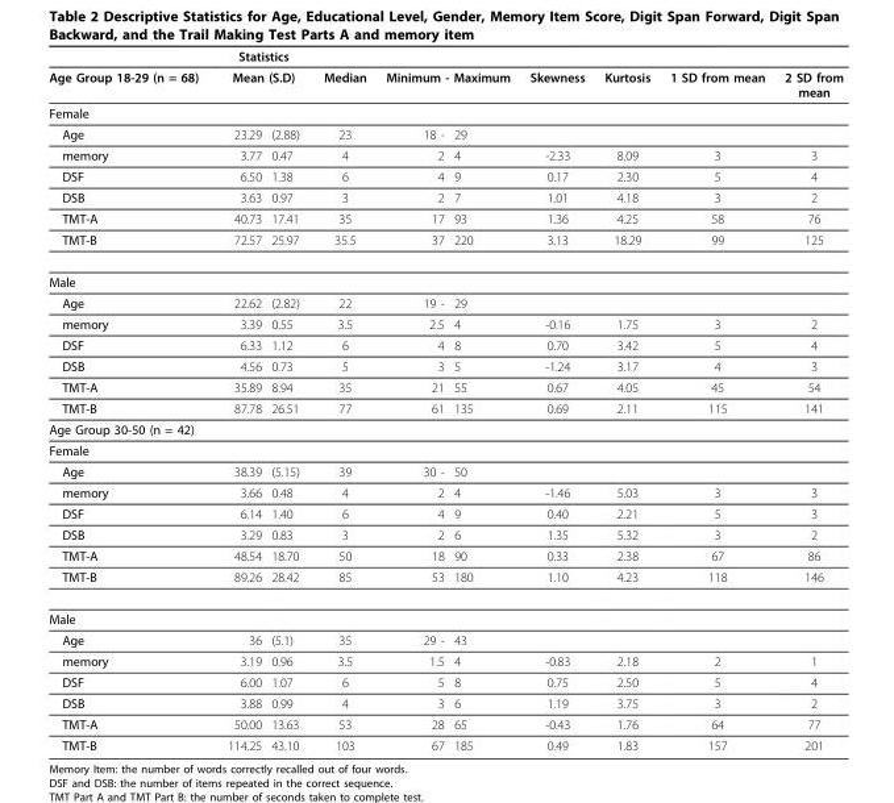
<table><thead><tr><td rowspan="3">Age Group 18-29 (n = 68) Female</td><td rowspan="2" colspan="2">Statistics Mean (S.D)</td><td rowspan="3">Median</td><td></td><td></td><td rowspan="3">Skewness</td><td rowspan="3">Kurtosis</td><td rowspan="3">1 SD from mean</td><td rowspan="3">2 SD from mean</td></tr><tr><td colspan="2">Minimum - Maximum</td></tr><tr><td></td><td></td><td></td><td></td></tr></thead><tbody><tr><td>Age</td><td>23.29</td><td>(2.88)</td><td>23</td><td>18 -</td><td>29</td><td></td><td></td><td></td><td></td></tr><tr><td>memory</td><td>3.77</td><td>0.47</td><td>4</td><td>2</td><td>4</td><td>-2.33</td><td>8.09</td><td>3</td><td>3</td></tr><tr><td>DSF</td><td>6.50</td><td>1.38</td><td>6</td><td>4</td><td>9</td><td>0.17</td><td>2.30</td><td>5</td><td>4</td></tr><tr><td>DSB</td><td>3.63</td><td>0.97</td><td>3</td><td>2</td><td>7</td><td>1.01</td><td>4.18</td><td>3</td><td>2</td></tr><tr><td>TMT-A</td><td>40.73</td><td>17.41</td><td>35</td><td>17</td><td>93</td><td>1.36</td><td>4.25</td><td>58</td><td>76</td></tr><tr><td>TMT-B</td><td>72.57</td><td>25.97</td><td>35.5</td><td>37</td><td>220</td><td>3.13</td><td>18.29</td><td>99</td><td>125</td></tr><tr><td colspan="10">Male</td></tr><tr><td>Age</td><td>22.62</td><td>(2.82)</td><td>22</td><td>19 -</td><td>29</td><td></td><td></td><td></td><td></td></tr><tr><td>memory</td><td>3.39</td><td>0.55</td><td>3.5</td><td>2.5</td><td>4</td><td>-0.16</td><td>1.75</td><td>3</td><td>2</td></tr><tr><td>DSF</td><td>6.33</td><td>1.12</td><td>6</td><td>4</td><td>8</td><td>0.70</td><td>3.42</td><td>5</td><td>4</td></tr><tr><td>DSB</td><td>4.56</td><td>0.73</td><td>5</td><td>3</td><td>5</td><td>-1.24</td><td>3.17</td><td>4</td><td>3</td></tr><tr><td>TMT-A</td><td>35.89</td><td>8.94</td><td>35</td><td>21</td><td>55</td><td>0.67</td><td>4.05</td><td>45</td><td>54</td></tr><tr><td>TMT-B</td><td>87.78</td><td>26.51</td><td>77</td><td>61</td><td>135</td><td>0.69</td><td>2.11</td><td>115</td><td>141</td></tr><tr><td colspan="10">Age Group 30-50 (n = 42)</td></tr><tr><td colspan="10">Female</td></tr><tr><td>Age</td><td>38.39</td><td>(5.15)</td><td>39</td><td>30 -</td><td>50</td><td></td><td></td><td></td><td></td></tr><tr><td>memory</td><td>3.66</td><td>0.48</td><td>4</td><td>2</td><td>4</td><td>-1.46</td><td>5.03</td><td>3</td><td>3</td></tr><tr><td>DSF</td><td>6.14</td><td>1.40</td><td>6</td><td>4</td><td>9</td><td>0.40</td><td>2.21</td><td>5</td><td>3</td></tr><tr><td>DSB</td><td>3.29</td><td>0.83</td><td>3</td><td>2</td><td>6</td><td>1.35</td><td>5.32</td><td>3</td><td>2</td></tr><tr><td>TMT-A</td><td>48.54</td><td>18.70</td><td>50</td><td>18</td><td>90</td><td>0.33</td><td>2.38</td><td>67</td><td>86</td></tr><tr><td>TMT-B</td><td>89.26</td><td>28.42</td><td>85</td><td>53</td><td>180</td><td>1.10</td><td>4.23</td><td>118</td><td>146</td></tr><tr><td colspan="10">Male</td></tr><tr><td>Age</td><td>36</td><td>(5.1)</td><td>35</td><td>29 -</td><td>43</td><td></td><td></td><td></td><td></td></tr><tr><td>memory</td><td>3.19</td><td>0.96</td><td>3.5</td><td>1.5</td><td>4</td><td>-0.83</td><td>2.18</td><td>2</td><td>1</td></tr><tr><td>DSF</td><td>6.00</td><td>1.07</td><td>6</td><td>5</td><td>8</td><td>0.75</td><td>2.50</td><td>5</td><td>4</td></tr><tr><td>DSB</td><td>3.88</td><td>0.99</td><td>4</td><td>3</td><td>6</td><td>1.19</td><td>3.75</td><td>3</td><td>2</td></tr><tr><td>TMT-A</td><td>50.00</td><td>13.63</td><td>53</td><td>28</td><td>65</td><td>-0.43</td><td>1.76</td><td>64</td><td>77</td></tr><tr><td>TMT-B</td><td>114.25</td><td>43.10</td><td>103</td><td>67</td><td>185</td><td>0.49</td><td>1.83</td><td>157</td><td>201</td></tr></tbody></table>